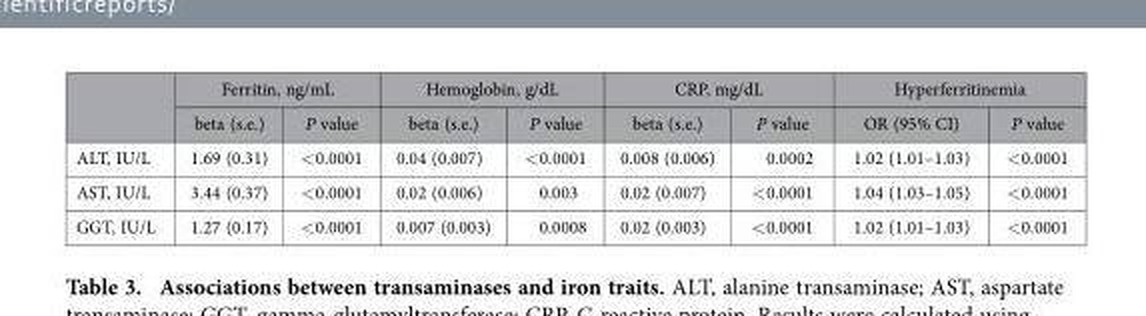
<table><thead><tr><td rowspan="2"></td><td colspan="2">Ferritin, ng/mL</td><td colspan="2">Hemoglobin, g/dL</td><td colspan="2">CRP, mg/dL</td><td colspan="2">Hyperferritinemia</td></tr><tr><td>beta (s.e.)</td><td>P value</td><td>beta (s.e.)</td><td>P value</td><td>beta (s.e.)</td><td>P value</td><td>OR (95% CI)</td><td>P value</td></tr></thead><tbody><tr><td>ALT, IU/L</td><td>1.69 (0.31)</td><td>&lt; 0.0001</td><td>0.04 (0.007)</td><td>&lt; 0.0001</td><td>0.008 (0.006)</td><td>0.0002</td><td>1.02 (1.01–1.03)</td><td>&lt; 0.0001</td></tr><tr><td>AST, IU/L</td><td>3.44 (0.37)</td><td>&lt; 0.0001</td><td>0.02 (0.006)</td><td>0.003</td><td>0.02 (0.007)</td><td>&lt; 0.0001</td><td>1.04 (1.03–1.05)</td><td>&lt; 0.0001</td></tr><tr><td>GGT, IU/L</td><td>1.27 (0.17)</td><td>&lt; 0.0001</td><td>0.007 (0.003)</td><td>0.0008</td><td>0.02 (0.003)</td><td>&lt; 0.0001</td><td>1.02 (1.01–1.03)</td><td>&lt; 0.0001</td></tr></tbody></table>